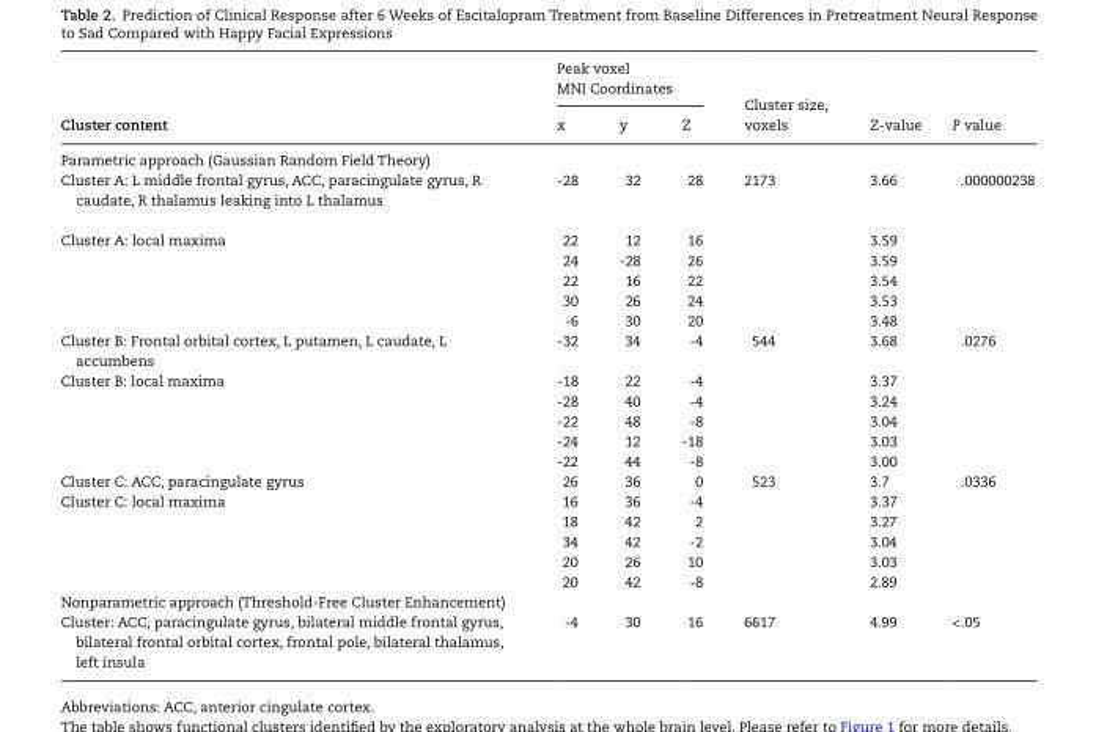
<table><thead><tr><td rowspan="2">Cluster content</td><td colspan="3">Peak voxel MNI Coordinates</td><td rowspan="2">Cluster size, voxels</td><td rowspan="2">Z-value</td><td rowspan="2">P value</td></tr><tr><td>x</td><td>y</td><td>Z</td></tr></thead><tbody><tr><td colspan="7">Parametric approach (Gaussian Random Field Theory)</td></tr><tr><td>Cluster A: L middle frontal gyrus, ACC, paracingulate gyrus, R caudate, R thalamus leaking into L thalamus</td><td>-28</td><td>32</td><td>28</td><td>2173</td><td>3.66</td><td>.000000238</td></tr><tr><td rowspan="5">Cluster A: local maxima</td><td>22</td><td>12</td><td>16</td><td></td><td>3.59</td><td></td></tr><tr><td>24</td><td>-28</td><td>26</td><td></td><td>3.59</td><td></td></tr><tr><td>22</td><td>16</td><td>22</td><td></td><td>3.54</td><td></td></tr><tr><td>30</td><td>26</td><td>24</td><td></td><td>3.53</td><td></td></tr><tr><td>-6</td><td>30</td><td>20</td><td></td><td>3.48</td><td></td></tr><tr><td>Cluster B: Frontal orbital cortex, L putamen, L caudate, L accumbens</td><td>-32</td><td>34</td><td>-4</td><td>544</td><td>3.68</td><td>.0276</td></tr><tr><td rowspan="5">Cluster B: local maxima</td><td>-18</td><td>22</td><td>-4</td><td></td><td>3.37</td><td></td></tr><tr><td>-28</td><td>40</td><td>-4</td><td></td><td>3.24</td><td></td></tr><tr><td>-22</td><td>48</td><td>-8</td><td></td><td>3.04</td><td></td></tr><tr><td>-24</td><td>12</td><td>-18</td><td></td><td>3.03</td><td></td></tr><tr><td>-22</td><td>44</td><td>-8</td><td></td><td>3.00</td><td></td></tr><tr><td>Cluster C: ACC, paracingulate gyrus</td><td>26</td><td>36</td><td>0</td><td>523</td><td>3.7</td><td>.0336</td></tr><tr><td rowspan="5">Cluster C: local maxima</td><td>16</td><td>36</td><td>-4</td><td></td><td>3.37</td><td></td></tr><tr><td>18</td><td>42</td><td>2</td><td></td><td>3.27</td><td></td></tr><tr><td>34</td><td>42</td><td>-2</td><td></td><td>3.04</td><td></td></tr><tr><td>20</td><td>26</td><td>10</td><td></td><td>3.03</td><td></td></tr><tr><td>20</td><td>42</td><td>-8</td><td></td><td>2.89</td><td></td></tr><tr><td colspan="7">Nonparametric approach (Threshold-Free Cluster Enhancement)</td></tr><tr><td>Cluster: ACC, paracingulate gyrus, bilateral middle frontal gyrus, bilateral frontal orbital cortex, frontal pole, bilateral thalamus, left insula</td><td>-4</td><td>30</td><td>16</td><td>6617</td><td>4.99</td><td>&lt;.05</td></tr></tbody></table>